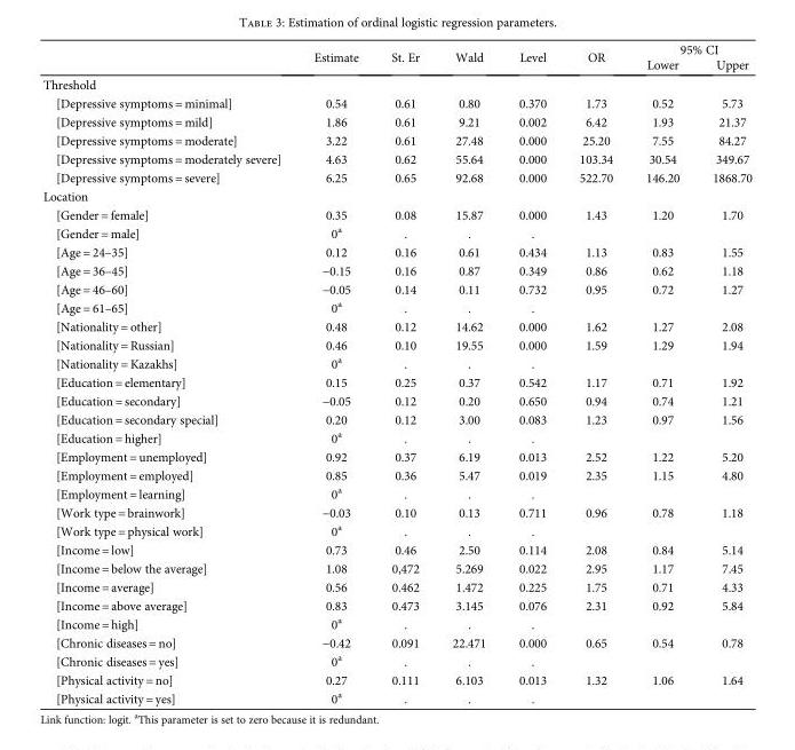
<table><thead><tr><td rowspan="2"></td><td rowspan="2">Estimate</td><td rowspan="2">St. Er</td><td rowspan="2">Wald</td><td rowspan="2">Level</td><td rowspan="2">OR</td><td colspan="2">95% CI</td></tr><tr><td>Lower</td><td>Upper</td></tr></thead><tbody><tr><td colspan="8">Threshold</td></tr><tr><td>[Depressive symptoms = minimal]</td><td>0.54</td><td>0.61</td><td>0.80</td><td>0.370</td><td>1.73</td><td>0.52</td><td>5.73</td></tr><tr><td>[Depressive symptoms = mild]</td><td>1.86</td><td>0.61</td><td>9.21</td><td>0.002</td><td>6.42</td><td>1.93</td><td>21.37</td></tr><tr><td>[Depressive symptoms = moderate]</td><td>3.22</td><td>0.61</td><td>27.48</td><td>0.000</td><td>25.20</td><td>7.55</td><td>84.27</td></tr><tr><td>[Depressive symptoms = moderately severe]</td><td>4.63</td><td>0.62</td><td>55.64</td><td>0.000</td><td>103.34</td><td>30.54</td><td>349.67</td></tr><tr><td>[Depressive symptoms = severe]</td><td>6.25</td><td>0.65</td><td>92.68</td><td>0.000</td><td>522.70</td><td>146.20</td><td>1868.70</td></tr><tr><td colspan="8">Location</td></tr><tr><td>[Gender = female]</td><td>0.35</td><td>0.08</td><td>15.87</td><td>0.000</td><td>1.43</td><td>1.20</td><td>1.70</td></tr><tr><td>[Gender = male]</td><td>0<sup>a</sup></td><td>.</td><td>.</td><td>.</td><td></td><td></td><td></td></tr><tr><td>[Age = 24–35]</td><td>0.12</td><td>0.16</td><td>0.61</td><td>0.434</td><td>1.13</td><td>0.83</td><td>1.55</td></tr><tr><td>[Age = 36–45]</td><td>−0.15</td><td>0.16</td><td>0.87</td><td>0.349</td><td>0.86</td><td>0.62</td><td>1.18</td></tr><tr><td>[Age = 46–60]</td><td>−0.05</td><td>0.14</td><td>0.11</td><td>0.732</td><td>0.95</td><td>0.72</td><td>1.27</td></tr><tr><td>[Age = 61–65]</td><td>0<sup>a</sup></td><td>.</td><td>.</td><td>.</td><td></td><td></td><td></td></tr><tr><td>[Nationality = other]</td><td>0.48</td><td>0.12</td><td>14.62</td><td>0.000</td><td>1.62</td><td>1.27</td><td>2.08</td></tr><tr><td>[Nationality = Russian]</td><td>0.46</td><td>0.10</td><td>19.55</td><td>0.000</td><td>1.59</td><td>1.29</td><td>1.94</td></tr><tr><td>[Nationality = Kazakhs]</td><td>0<sup>a</sup></td><td>.</td><td>.</td><td>.</td><td></td><td></td><td></td></tr><tr><td>[Education = elementary]</td><td>0.15</td><td>0.25</td><td>0.37</td><td>0.542</td><td>1.17</td><td>0.71</td><td>1.92</td></tr><tr><td>[Education = secondary]</td><td>−0.05</td><td>0.12</td><td>0.20</td><td>0.650</td><td>0.94</td><td>0.74</td><td>1.21</td></tr><tr><td>[Education = secondary special]</td><td>0.20</td><td>0.12</td><td>3.00</td><td>0.083</td><td>1.23</td><td>0.97</td><td>1.56</td></tr><tr><td>[Education = higher]</td><td>0<sup>a</sup></td><td>.</td><td>.</td><td>.</td><td></td><td></td><td></td></tr><tr><td>[Employment = unemployed]</td><td>0.92</td><td>0.37</td><td>6.19</td><td>0.013</td><td>2.52</td><td>1.22</td><td>5.20</td></tr><tr><td>[Employment = employed]</td><td>0.85</td><td>0.36</td><td>5.47</td><td>0.019</td><td>2.35</td><td>1.15</td><td>4.80</td></tr><tr><td>[Employment = learning]</td><td>0<sup>a</sup></td><td>.</td><td>.</td><td>.</td><td></td><td></td><td></td></tr><tr><td>[Work type = brainwork]</td><td>−0.03</td><td>0.10</td><td>0.13</td><td>0.711</td><td>0.96</td><td>0.78</td><td>1.18</td></tr><tr><td>[Work type = physical work]</td><td>0<sup>a</sup></td><td>.</td><td>.</td><td>.</td><td></td><td></td><td></td></tr><tr><td>[Income = low]</td><td>0.73</td><td>0.46</td><td>2.50</td><td>0.114</td><td>2.08</td><td>0.84</td><td>5.14</td></tr><tr><td>[Income = below the average]</td><td>1.08</td><td>0,472</td><td>5.269</td><td>0.022</td><td>2.95</td><td>1.17</td><td>7.45</td></tr><tr><td>[Income = average]</td><td>0.56</td><td>0.462</td><td>1.472</td><td>0.225</td><td>1.75</td><td>0.71</td><td>4.33</td></tr><tr><td>[Income = above average]</td><td>0.83</td><td>0.473</td><td>3.145</td><td>0.076</td><td>2.31</td><td>0.92</td><td>5.84</td></tr><tr><td>[Income = high]</td><td>0<sup>a</sup></td><td>.</td><td>.</td><td>.</td><td></td><td></td><td></td></tr><tr><td>[Chronic diseases = no]</td><td>−0.42</td><td>0.091</td><td>22.471</td><td>0.000</td><td>0.65</td><td>0.54</td><td>0.78</td></tr><tr><td>[Chronic diseases = yes]</td><td>0<sup>a</sup></td><td>.</td><td>.</td><td>.</td><td></td><td></td><td></td></tr><tr><td>[Physical activity = no]</td><td>0.27</td><td>0.111</td><td>6.103</td><td>0.013</td><td>1.32</td><td>1.06</td><td>1.64</td></tr><tr><td>[Physical activity = yes]</td><td>0<sup>a</sup></td><td>.</td><td>.</td><td>.</td><td></td><td></td><td></td></tr></tbody></table>